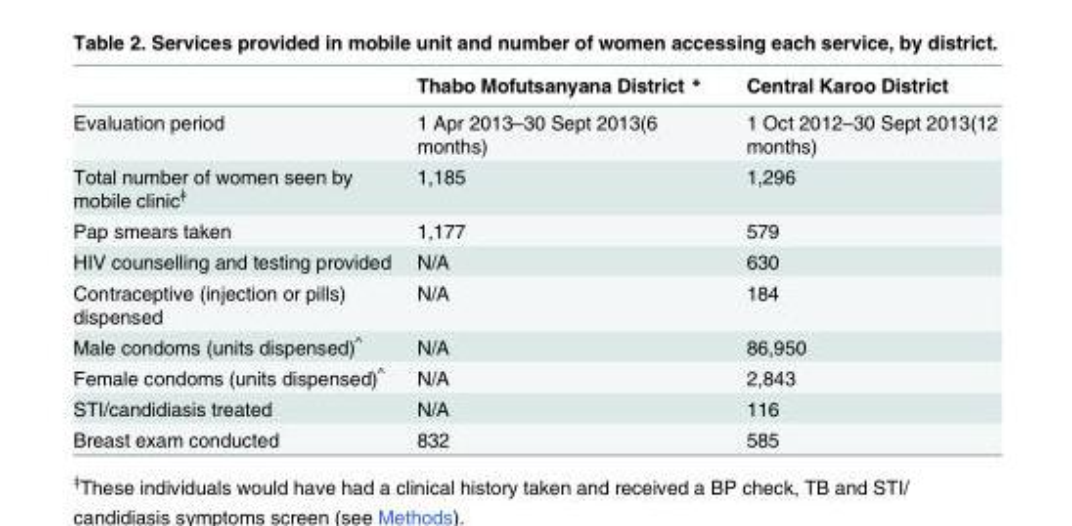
<table><thead><tr><td></td><td>Thabo Mofutsanyana District *</td><td>Central Karoo District</td></tr></thead><tbody><tr><td>Evaluation period</td><td>1 Apr 2013–30 Sept 2013(6 months)</td><td>1 Oct 2012–30 Sept 2013(12 months)</td></tr><tr><td>Total number of women seen by mobile clinic<sup>ǂ</sup></td><td>1,185</td><td>1,296</td></tr><tr><td>Pap smears taken</td><td>1,177</td><td>579</td></tr><tr><td>HIV counselling and testing provided</td><td>N/A</td><td>630</td></tr><tr><td>Contraceptive (injection or pills) dispensed</td><td>N/A</td><td>184</td></tr><tr><td>Male condoms (units dispensed)<sup>^</sup></td><td>N/A</td><td>86,950</td></tr><tr><td>Female condoms (units dispensed)<sup>^</sup></td><td>N/A</td><td>2,843</td></tr><tr><td>STI/candidiasis treated</td><td>N/A</td><td>116</td></tr><tr><td>Breast exam conducted</td><td>832</td><td>585</td></tr></tbody></table>